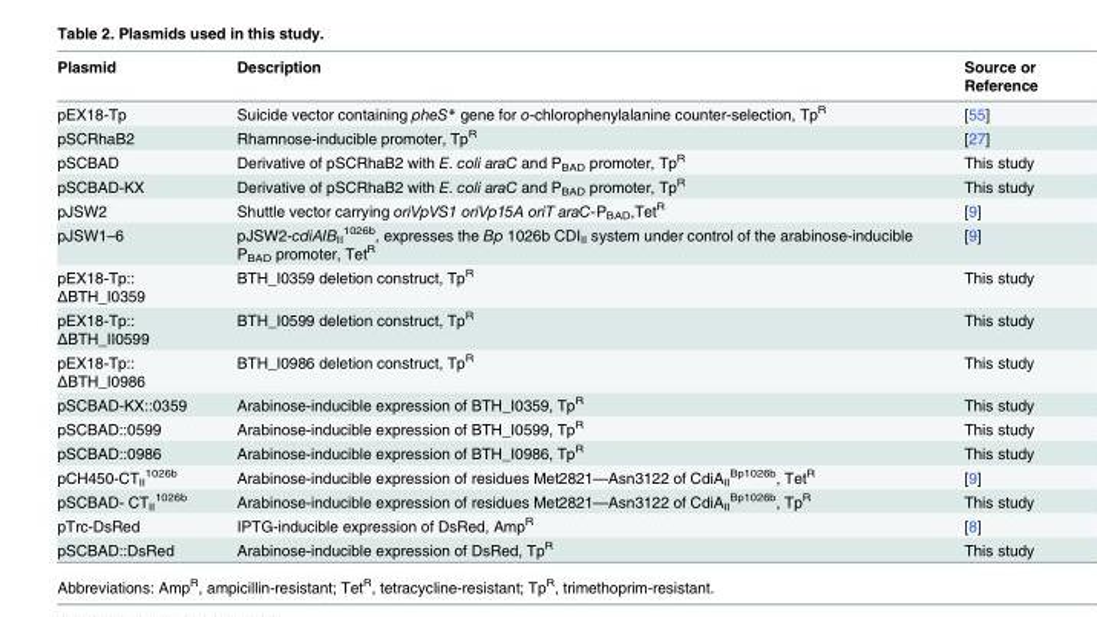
<table><thead><tr><td>Plasmid</td><td>Description</td><td>Source or Reference</td></tr></thead><tbody><tr><td>pEX18-Tp</td><td>Suicide vector containing pheS* gene for o-chlorophenylalanine counter-selection, Tp<sup>R</sup></td><td>[55]</td></tr><tr><td>pSCRhaB2</td><td>Rhamnose-inducible promoter, Tp<sup>R</sup></td><td>[27]</td></tr><tr><td>pSCBAD</td><td>Derivative of pSCRhaB2 with E. coli araC and P<sub>BAD</sub> promoter, Tp<sup>R</sup></td><td>This study</td></tr><tr><td>pSCBAD-KX</td><td>Derivative of pSCRhaB2 with E. coli araC and P<sub>BAD</sub> promoter, Tp<sup>R</sup></td><td>This study</td></tr><tr><td>pJSW2</td><td>Shuttle vector carrying oriVpVS1 oriVp15A oriT araC-P<sub>BAD</sub>,Tet<sup>R</sup></td><td>[9]</td></tr><tr><td>pJSW1–6</td><td>pJSW2-cdiAIB<sub>II</sub> <sup>1026b</sup>, expresses the Bp 1026b CDI<sub>II</sub> system under control of the arabinose-inducible P<sub>BAD</sub> promoter, Tet<sup>R</sup></td><td>[9]</td></tr><tr><td>pEX18-Tp:: ΔBTH_I0359</td><td>BTH_I0359 deletion construct, Tp<sup>R</sup></td><td>This study</td></tr><tr><td>pEX18-Tp:: ΔBTH_II0599</td><td>BTH_I0599 deletion construct, Tp<sup>R</sup></td><td>This study</td></tr><tr><td>pEX18-Tp:: ΔBTH_I0986</td><td>BTH_I0986 deletion construct, Tp<sup>R</sup></td><td>This study</td></tr><tr><td>pSCBAD-KX::0359</td><td>Arabinose-inducible expression of BTH_I0359, Tp<sup>R</sup></td><td>This study</td></tr><tr><td>pSCBAD::0599</td><td>Arabinose-inducible expression of BTH_I0599, Tp<sup>R</sup></td><td>This study</td></tr><tr><td>pSCBAD::0986</td><td>Arabinose-inducible expression of BTH_I0986, Tp<sup>R</sup></td><td>This study</td></tr><tr><td>pCH450-CT<sub>II</sub> <sup>1026b</sup></td><td>Arabinose-inducible expression of residues Met2821—Asn3122 of CdiA<sub>II</sub> <sup>Bp1026b</sup>, Tet<sup>R</sup></td><td>[9]</td></tr><tr><td>pSCBAD- CT<sub>II</sub> <sup>1026b</sup></td><td>Arabinose-inducible expression of residues Met2821—Asn3122 of CdiA<sub>II</sub> <sup>Bp1026b</sup>, Tp<sup>R</sup></td><td>This study</td></tr><tr><td>pTrc-DsRed</td><td>IPTG-inducible expression of DsRed, Amp<sup>R</sup></td><td>[8]</td></tr><tr><td>pSCBAD::DsRed</td><td>Arabinose-inducible expression of DsRed, Tp<sup>R</sup></td><td>This study</td></tr></tbody></table>